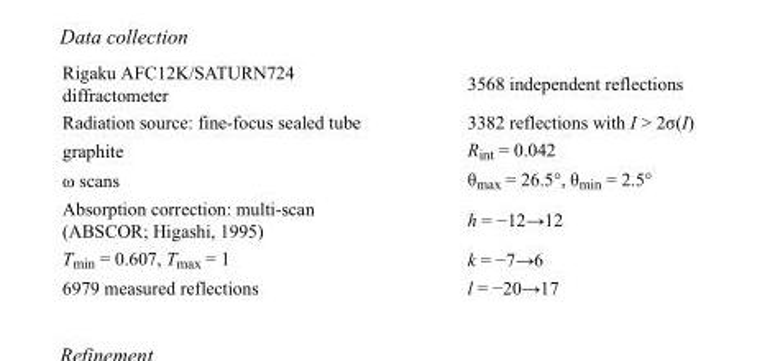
<table><tbody><tr><td>Rigaku AFC12K/SATURN724 diffractometer</td><td>3568 independent reflections</td></tr><tr><td>Radiation source: fine-focus sealed tube</td><td>3382 reflections with I &gt; 2σ(I)</td></tr><tr><td>graphite</td><td>R<sub>int</sub> = 0.042</td></tr><tr><td>ω scans</td><td>θ<sub>max</sub> = 26.5°, θ<sub>min</sub> = 2.5°</td></tr><tr><td>Absorption correction: multi-scan (ABSCOR; Higashi, 1995)</td><td>h = −12→12</td></tr><tr><td>T<sub>min</sub> = 0.607, T<sub>max</sub> = 1</td><td>k = −7→6</td></tr><tr><td>6979 measured reflections</td><td>l = −20→17</td></tr></tbody></table>